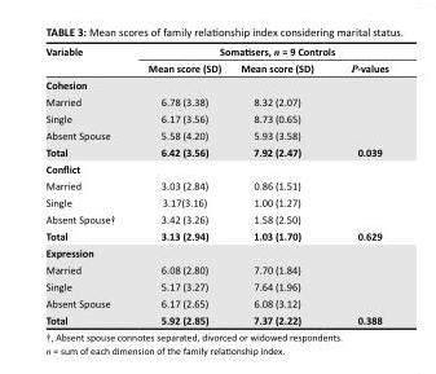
<table><thead><tr><td rowspan="2">Variable</td><td colspan="3">Somatisers, n = 9 Controls</td></tr><tr><td>Mean score (SD)</td><td>Mean score (SD)</td><td>P-values</td></tr></thead><tbody><tr><td colspan="4">Cohesion</td></tr><tr><td>Married</td><td>6.78 (3.38)</td><td>8.32 (2.07)</td><td></td></tr><tr><td>Single</td><td>6.17 (3.56)</td><td>8.73 (0.65)</td><td></td></tr><tr><td>Absent Spouse</td><td>5.58 (4.20)</td><td>5.93 (3.58)</td><td></td></tr><tr><td>Total</td><td>6.42 (3.56)</td><td>7.92 (2.47)</td><td>0.039</td></tr><tr><td colspan="4">Conflict</td></tr><tr><td>Married</td><td>3.03 (2.84)</td><td>0.86 (1.51)</td><td></td></tr><tr><td>Single</td><td>3.17(3.16)</td><td>1.00 (1.27)</td><td></td></tr><tr><td>Absent Spouse†</td><td>3.42 (3.26)</td><td>1.58 (2.50)</td><td></td></tr><tr><td>Total</td><td>3.13 (2.94)</td><td>1.03 (1.70)</td><td>0.629</td></tr><tr><td colspan="4">Expression</td></tr><tr><td>Married</td><td>6.08 (2.80)</td><td>7.70 (1.84)</td><td></td></tr><tr><td>Single</td><td>5.17 (3.27)</td><td>7.64 (1.96)</td><td></td></tr><tr><td>Absent Spouse</td><td>6.17 (2.65)</td><td>6.08 (3.12)</td><td></td></tr><tr><td>Total</td><td>5.92 (2.85)</td><td>7.37 (2.22)</td><td>0.388</td></tr></tbody></table>